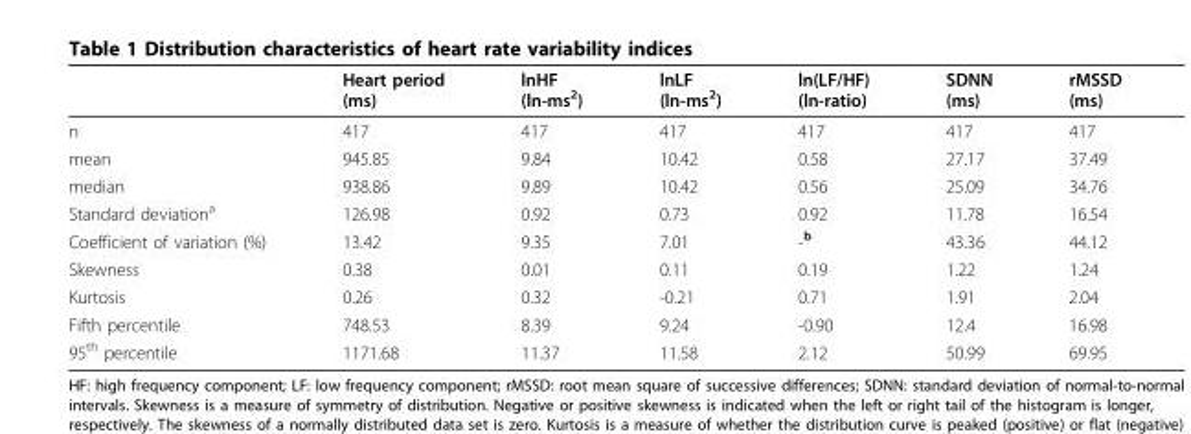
<table><thead><tr><td></td><td>Heart period (ms)</td><td>lnHF (ln-ms<sup>2</sup>)</td><td>lnLF (ln-ms<sup>2</sup>)</td><td>ln(LF/HF) (ln-ratio)</td><td>SDNN (ms)</td><td>rMSSD (ms)</td></tr></thead><tbody><tr><td>n</td><td>417</td><td>417</td><td>417</td><td>417</td><td>417</td><td>417</td></tr><tr><td>mean</td><td>945.85</td><td>9.84</td><td>10.42</td><td>0.58</td><td>27.17</td><td>37.49</td></tr><tr><td>median</td><td>938.86</td><td>9.89</td><td>10.42</td><td>0.56</td><td>25.09</td><td>34.76</td></tr><tr><td>Standard deviation<sup>a</sup></td><td>126.98</td><td>0.92</td><td>0.73</td><td>0.92</td><td>11.78</td><td>16.54</td></tr><tr><td>Coefficient of variation (%)</td><td>13.42</td><td>9.35</td><td>7.01</td><td>-<sup>b</sup></td><td>43.36</td><td>44.12</td></tr><tr><td>Skewness</td><td>0.38</td><td>0.01</td><td>0.11</td><td>0.19</td><td>1.22</td><td>1.24</td></tr><tr><td>Kurtosis</td><td>0.26</td><td>0.32</td><td>-0.21</td><td>0.71</td><td>1.91</td><td>2.04</td></tr><tr><td>Fifth percentile</td><td>748.53</td><td>8.39</td><td>9.24</td><td>-0.90</td><td>12.4</td><td>16.98</td></tr><tr><td>95<sup>th</sup> percentile</td><td>1171.68</td><td>11.37</td><td>11.58</td><td>2.12</td><td>50.99</td><td>69.95</td></tr></tbody></table>